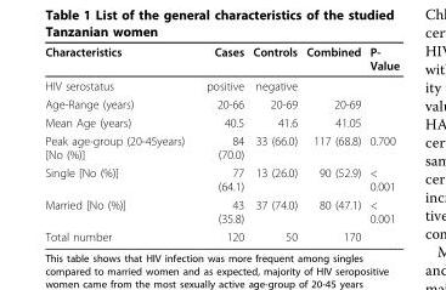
<table><thead><tr><td>Characteristics</td><td>Cases</td><td>Controls</td><td>Combined</td><td>P- Value</td></tr></thead><tbody><tr><td>HIV serostatus</td><td>positive</td><td>negative</td><td></td><td></td></tr><tr><td>Age-Range (years)</td><td>20-66</td><td>20-69</td><td>20-69</td><td></td></tr><tr><td>Mean Age (years)</td><td>40.5</td><td>41.6</td><td>41.05</td><td></td></tr><tr><td>Peak age-group (20-45years) [No (%)]</td><td>84 (70.0)</td><td>33 (66.0)</td><td>117 (68.8)</td><td>0.700</td></tr><tr><td>Single [No (%)]</td><td>77 (64.1)</td><td>13 (26.0)</td><td>90 (52.9)</td><td>&lt; 0.001</td></tr><tr><td>Married [No (%)]</td><td>43 (35.8)</td><td>37 (74.0)</td><td>80 (47.1)</td><td>&lt; 0.001</td></tr><tr><td>Total number</td><td>120</td><td>50</td><td>170</td><td></td></tr></tbody></table>